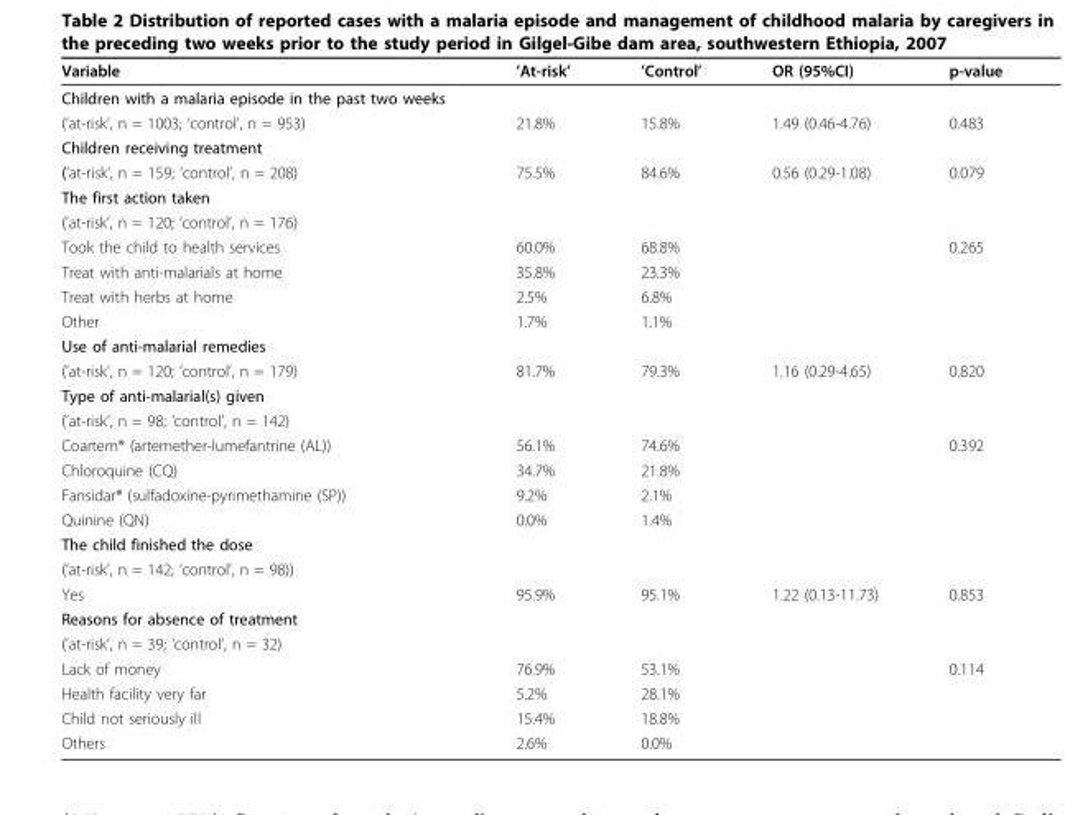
<table><thead><tr><td>Variable</td><td>’At-risk’</td><td>’Control’</td><td>OR (95%CI)</td><td>p-value</td></tr></thead><tbody><tr><td colspan="5">Children with a malaria episode in the past two weeks</td></tr><tr><td>(’at-risk’, n = 1003; ‘control’, n = 953)</td><td>21.8%</td><td>15.8%</td><td>1.49 (0.46-4.76)</td><td>0.483</td></tr><tr><td colspan="5">Children receiving treatment</td></tr><tr><td>(’at-risk’, n = 159; ‘control’, n = 208)</td><td>75.5%</td><td>84.6%</td><td>0.56 (0.29-1.08)</td><td>0.079</td></tr><tr><td colspan="5">The first action taken</td></tr><tr><td colspan="5">(’at-risk’, n = 120; ‘control’, n = 176)</td></tr><tr><td>Took the child to health services</td><td>60.0%</td><td>68.8%</td><td></td><td>0.265</td></tr><tr><td>Treat with anti-malarials at home</td><td>35.8%</td><td>23.3%</td><td></td><td></td></tr><tr><td>Treat with herbs at home</td><td>2.5%</td><td>6.8%</td><td></td><td></td></tr><tr><td>Other</td><td>1.7%</td><td>1.1%</td><td></td><td></td></tr><tr><td colspan="5">Use of anti-malarial remedies</td></tr><tr><td>(’at-risk’, n = 120; ‘control’, n = 179)</td><td>81.7%</td><td>79.3%</td><td>1.16 (0.29-4.65)</td><td>0.820</td></tr><tr><td colspan="5">Type of anti-malarial(s) given</td></tr><tr><td colspan="5">(’at-risk’, n = 98; ‘control’, n = 142)</td></tr><tr><td>Coartem<sup>®</sup> (artemether-lumefantrine (AL))</td><td>56.1%</td><td>74.6%</td><td></td><td>0.392</td></tr><tr><td>Chloroquine (CQ)</td><td>34.7%</td><td>21.8%</td><td></td><td></td></tr><tr><td>Fansidar<sup>®</sup> (sulfadoxine-pyrimethamine (SP))</td><td>9.2%</td><td>2.1%</td><td></td><td></td></tr><tr><td>Quinine (QN)</td><td>0.0%</td><td>1.4%</td><td></td><td></td></tr><tr><td colspan="5">The child finished the dose</td></tr><tr><td colspan="5">(’at-risk’, n = 142; ‘control’, n = 98))</td></tr><tr><td>Yes</td><td>95.9%</td><td>95.1%</td><td>1.22 (0.13-11.73)</td><td>0.853</td></tr><tr><td colspan="5">Reasons for absence of treatment</td></tr><tr><td colspan="5">(’at-risk’, n = 39; ‘control’, n = 32)</td></tr><tr><td>Lack of money</td><td>76.9%</td><td>53.1%</td><td></td><td>0.114</td></tr><tr><td>Health facility very far</td><td>5.2%</td><td>28.1%</td><td></td><td></td></tr><tr><td>Child not seriously ill</td><td>15.4%</td><td>18.8%</td><td></td><td></td></tr><tr><td>Others</td><td>2.6%</td><td>0.0%</td><td></td><td></td></tr></tbody></table>